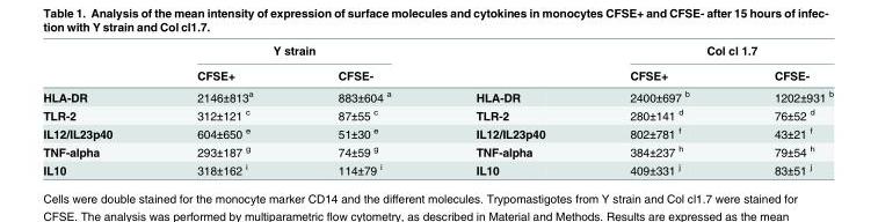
<table><thead><tr><td rowspan="2"></td><td colspan="2">Y strain</td><td rowspan="2"></td><td colspan="2">Col cl 1.7</td></tr><tr><td>CFSE+</td><td>CFSE-</td><td>CFSE+</td><td>CFSE-</td></tr></thead><tbody><tr><td>HLA-DR</td><td>2146±813<sup>a</sup></td><td>883±604 <sup>a</sup></td><td>HLA-DR</td><td>2400±697 <sup>b</sup></td><td>1202±931 <sup>b</sup></td></tr><tr><td>TLR-2</td><td>312±121 <sup>c</sup></td><td>87±55 <sup>c</sup></td><td>TLR-2</td><td>280±141 <sup>d</sup></td><td>76±52 <sup>d</sup></td></tr><tr><td>IL12/IL23p40</td><td>604±650 <sup>e</sup></td><td>51±30 <sup>e</sup></td><td>IL12/IL23p40</td><td>802±781 <sup>f</sup></td><td>43±21 <sup>f</sup></td></tr><tr><td>TNF-alpha</td><td>293±187 <sup>g</sup></td><td>74±59 <sup>g</sup></td><td>TNF-alpha</td><td>384±237 <sup>h</sup></td><td>79±54 <sup>h</sup></td></tr><tr><td>IL10</td><td>318±162 <sup>i</sup></td><td>114±79 <sup>i</sup></td><td>IL10</td><td>409±331 <sup>j</sup></td><td>83±51 <sup>j</sup></td></tr></tbody></table>